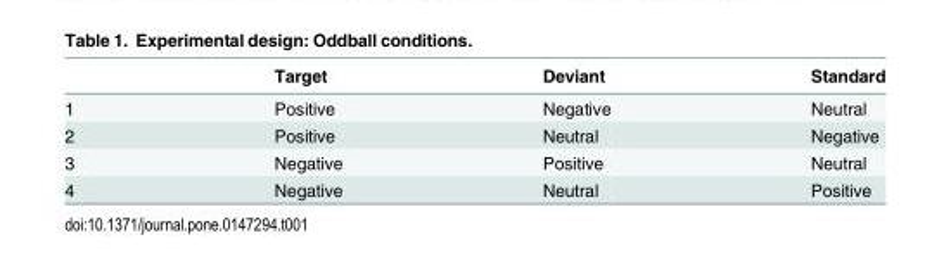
<table><thead><tr><td></td><td>Target</td><td>Deviant</td><td>Standard</td></tr></thead><tbody><tr><td>1</td><td>Positive</td><td>Negative</td><td>Neutral</td></tr><tr><td>2</td><td>Positive</td><td>Neutral</td><td>Negative</td></tr><tr><td>3</td><td>Negative</td><td>Positive</td><td>Neutral</td></tr><tr><td>4</td><td>Negative</td><td>Neutral</td><td>Positive</td></tr></tbody></table>